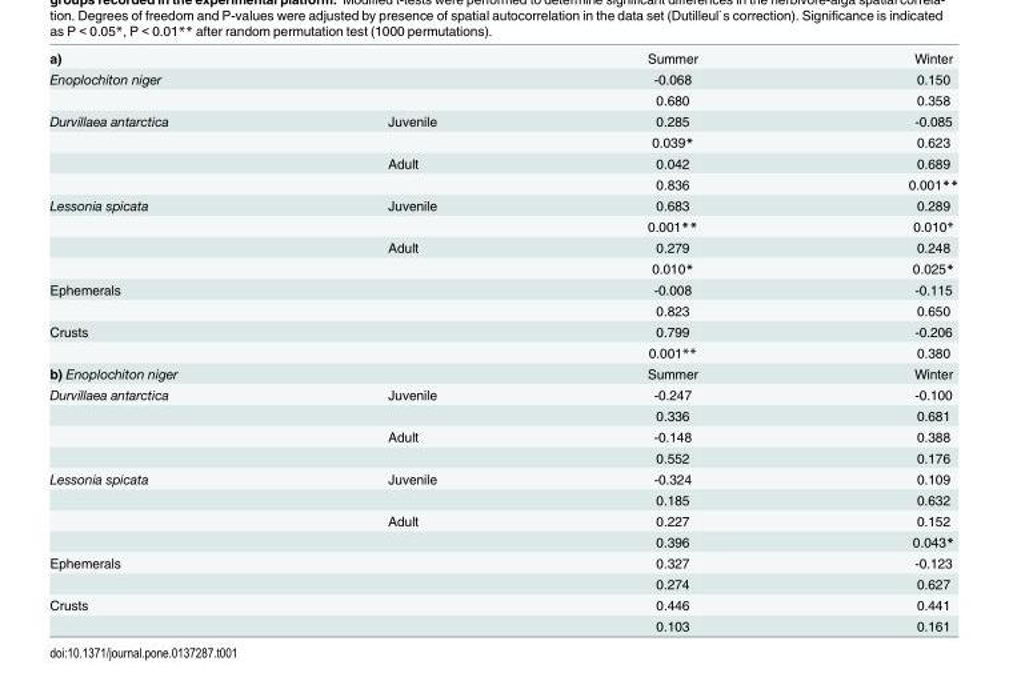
<table><tbody><tr><td>a)</td><td></td><td>Summer</td><td>Winter</td></tr><tr><td rowspan="2">Enoplochiton niger</td><td></td><td>-0.068</td><td>0.150</td></tr><tr><td></td><td>0.680</td><td>0.358</td></tr><tr><td rowspan="4">Durvillaea antarctica</td><td>Juvenile</td><td>0.285</td><td>-0.085</td></tr><tr><td></td><td>0.039*</td><td>0.623</td></tr><tr><td>Adult</td><td>0.042</td><td>0.689</td></tr><tr><td></td><td>0.836</td><td>0.001**</td></tr><tr><td rowspan="4">Lessonia spicata</td><td>Juvenile</td><td>0.683</td><td>0.289</td></tr><tr><td></td><td>0.001**</td><td>0.010*</td></tr><tr><td>Adult</td><td>0.279</td><td>0.248</td></tr><tr><td></td><td>0.010*</td><td>0.025*</td></tr><tr><td rowspan="2">Ephemerals</td><td></td><td>-0.008</td><td>-0.115</td></tr><tr><td></td><td>0.823</td><td>0.650</td></tr><tr><td rowspan="2">Crusts</td><td></td><td>0.799</td><td>-0.206</td></tr><tr><td></td><td>0.001**</td><td>0.380</td></tr><tr><td>b) Enoplochiton niger</td><td></td><td>Summer</td><td>Winter</td></tr><tr><td rowspan="4">Durvillaea antarctica</td><td>Juvenile</td><td>-0.247</td><td>-0.100</td></tr><tr><td></td><td>0.336</td><td>0.681</td></tr><tr><td>Adult</td><td>-0.148</td><td>0.388</td></tr><tr><td></td><td>0.552</td><td>0.176</td></tr><tr><td rowspan="4">Lessonia spicata</td><td>Juvenile</td><td>-0.324</td><td>0.109</td></tr><tr><td></td><td>0.185</td><td>0.632</td></tr><tr><td>Adult</td><td>0.227</td><td>0.152</td></tr><tr><td></td><td>0.396</td><td>0.043*</td></tr><tr><td rowspan="2">Ephemerals</td><td></td><td>0.327</td><td>-0.123</td></tr><tr><td></td><td>0.274</td><td>0.627</td></tr><tr><td rowspan="2">Crusts</td><td></td><td>0.446</td><td>0.441</td></tr><tr><td></td><td>0.103</td><td>0.161</td></tr></tbody></table>